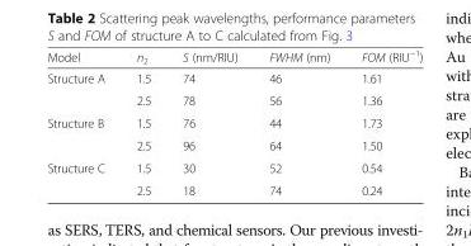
<table><thead><tr><td>Model</td><td>n<sub>2</sub></td><td>S (nm/RIU)</td><td>FWHM (nm)</td><td>FOM (RIU<sup>−1</sup>)</td></tr></thead><tbody><tr><td rowspan="2">Structure A</td><td>1.5</td><td>74</td><td>46</td><td>1.61</td></tr><tr><td>2.5</td><td>78</td><td>56</td><td>1.36</td></tr><tr><td rowspan="2">Structure B</td><td>1.5</td><td>76</td><td>44</td><td>1.73</td></tr><tr><td>2.5</td><td>96</td><td>64</td><td>1.50</td></tr><tr><td rowspan="2">Structure C</td><td>1.5</td><td>30</td><td>52</td><td>0.54</td></tr><tr><td>2.5</td><td>18</td><td>74</td><td>0.24</td></tr></tbody></table>